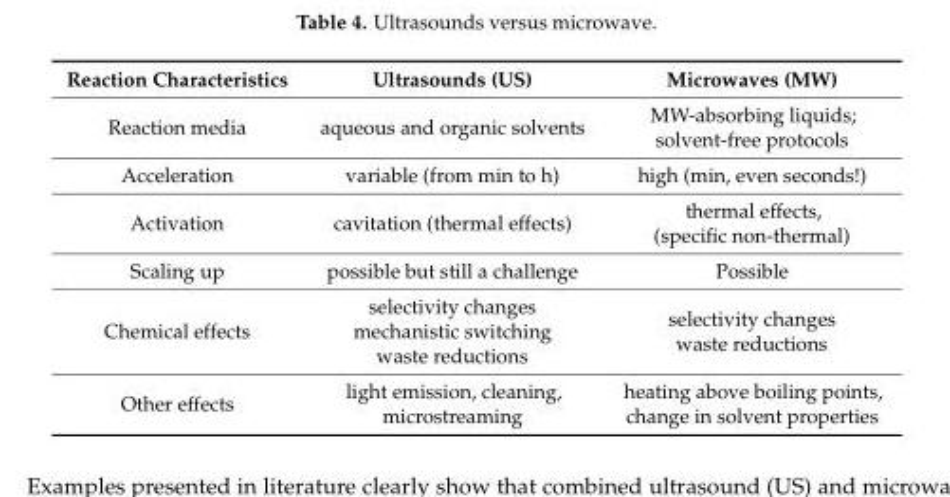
<table><thead><tr><td>Reaction Characteristics</td><td>Ultrasounds (US)</td><td>Microwaves (MW)</td></tr></thead><tbody><tr><td>Reaction media</td><td>aqueous and organic solvents</td><td>MW-absorbing liquids; solvent-free protocols</td></tr><tr><td>Acceleration</td><td>variable (from min to h)</td><td>high (min, even seconds!)</td></tr><tr><td>Activation</td><td>cavitation (thermal effects)</td><td>thermal effects, (specific non-thermal)</td></tr><tr><td>Scaling up</td><td>possible but still a challenge</td><td>Possible</td></tr><tr><td>Chemical effects</td><td>selectivity changes mechanistic switching waste reductions</td><td>selectivity changes waste reductions</td></tr><tr><td>Other effects</td><td>light emission, cleaning, microstreaming</td><td>heating above boiling points, change in solvent properties</td></tr></tbody></table>